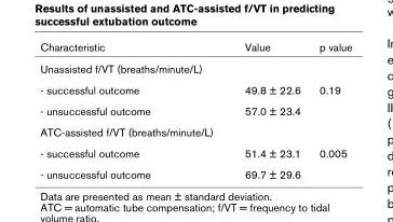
<table><thead><tr><td>Characteristic</td><td>Value</td><td>p value</td></tr></thead><tbody><tr><td colspan="3">Unassisted f/VT (breaths/minute/L)</td></tr><tr><td>- successful outcome</td><td>49.8 ± 22.6</td><td>0.19</td></tr><tr><td>- unsuccessful outcome</td><td>57.0 ± 23.4</td><td></td></tr><tr><td colspan="3">ATC-assisted f/VT (breaths/minute/L)</td></tr><tr><td>- successful outcome</td><td>51.4 ± 23.1</td><td>0.005</td></tr><tr><td>- unsuccessful outcome</td><td>69.7 ± 29.6</td><td></td></tr></tbody></table>